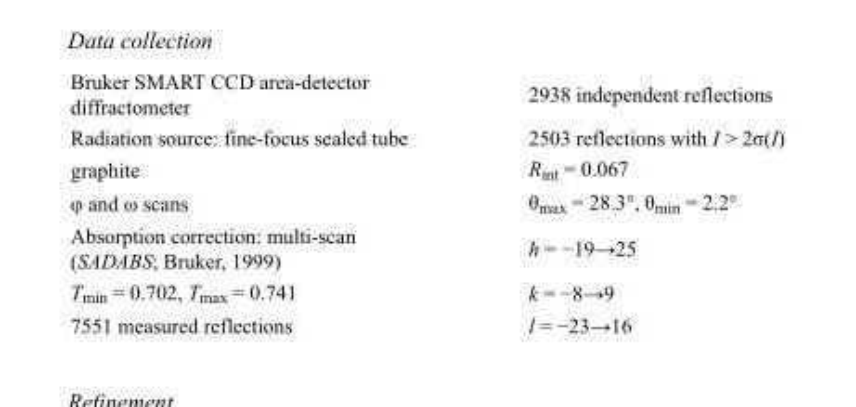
<table><tbody><tr><td>Bruker SMART CCD area-detector diffractometer</td><td>2938 independent reflections</td></tr><tr><td>Radiation source: fine-focus sealed tube</td><td>2503 reflections with I &gt; 2σ(I)</td></tr><tr><td>graphite</td><td>R<sub>int</sub> = 0.067</td></tr><tr><td>φ and ω scans</td><td>θ<sub>max</sub> = 28.3°, θ<sub>min</sub> = 2.2°</td></tr><tr><td>Absorption correction: multi-scan (SADABS; Bruker, 1999)</td><td>h = −19→25</td></tr><tr><td>T<sub>min</sub> = 0.702, T<sub>max</sub> = 0.741</td><td>k = −8→9</td></tr><tr><td>7551 measured reflections</td><td>l = −23→16</td></tr></tbody></table>